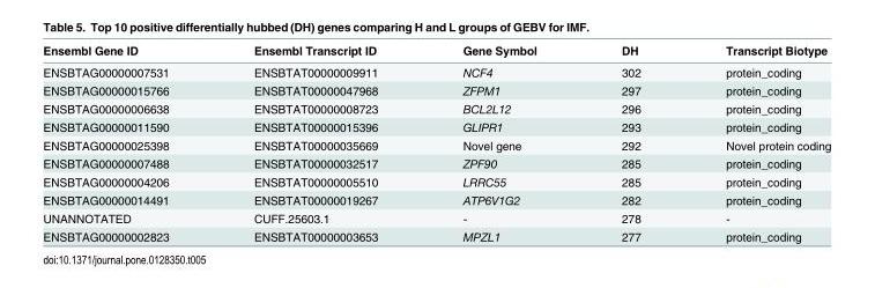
<table><thead><tr><td>Ensembl Gene ID</td><td>Ensembl Transcript ID</td><td>Gene Symbol</td><td>DH</td><td>Transcript Biotype</td></tr></thead><tbody><tr><td>ENSBTAG00000007531</td><td>ENSBTAT00000009911</td><td>NCF4</td><td>302</td><td>protein_coding</td></tr><tr><td>ENSBTAG00000015766</td><td>ENSBTAT00000047968</td><td>ZFPM1</td><td>297</td><td>protein_coding</td></tr><tr><td>ENSBTAG00000006638</td><td>ENSBTAT00000008723</td><td>BCL2L12</td><td>296</td><td>protein_coding</td></tr><tr><td>ENSBTAG00000011590</td><td>ENSBTAT00000015396</td><td>GLIPR1</td><td>293</td><td>protein_coding</td></tr><tr><td>ENSBTAG00000025398</td><td>ENSBTAT00000035669</td><td>Novel gene</td><td>292</td><td>Novel protein coding</td></tr><tr><td>ENSBTAG00000007488</td><td>ENSBTAT00000032517</td><td>ZPF90</td><td>285</td><td>protein_coding</td></tr><tr><td>ENSBTAG00000004206</td><td>ENSBTAT00000005510</td><td>LRRC55</td><td>285</td><td>protein_coding</td></tr><tr><td>ENSBTAG00000014491</td><td>ENSBTAT00000019267</td><td>ATP6V1G2</td><td>282</td><td>protein_coding</td></tr><tr><td>UNANNOTATED</td><td>CUFF.25603.1</td><td>-</td><td>278</td><td>-</td></tr><tr><td>ENSBTAG00000002823</td><td>ENSBTAT00000003653</td><td>MPZL1</td><td>277</td><td>protein_coding</td></tr></tbody></table>